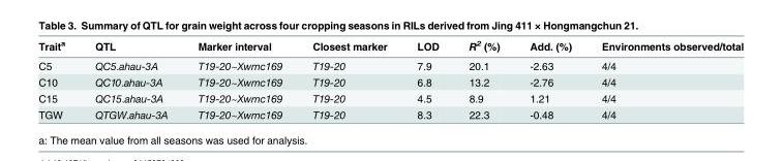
<table><thead><tr><td>Trait<sup>a</sup></td><td>QTL</td><td>Marker interval</td><td>Closest marker</td><td>LOD</td><td>R<sup>2</sup> (%)</td><td>Add. (%)</td><td>Environments observed/total</td></tr></thead><tbody><tr><td>C5</td><td>QC5.ahau-3A</td><td>T19-20~Xwmc169</td><td>T19-20</td><td>7.9</td><td>20.1</td><td>-2.63</td><td>4/4</td></tr><tr><td>C10</td><td>QC10.ahau-3A</td><td>T19-20~Xwmc169</td><td>T19-20</td><td>6.8</td><td>13.2</td><td>-2.76</td><td>4/4</td></tr><tr><td>C15</td><td>QC15.ahau-3A</td><td>T19-20~Xwmc169</td><td>T19-20</td><td>4.5</td><td>8.9</td><td>1.21</td><td>4/4</td></tr><tr><td>TGW</td><td>QTGW.ahau-3A</td><td>T19-20~Xwmc169</td><td>T19-20</td><td>8.3</td><td>22.3</td><td>-0.48</td><td>4/4</td></tr></tbody></table>